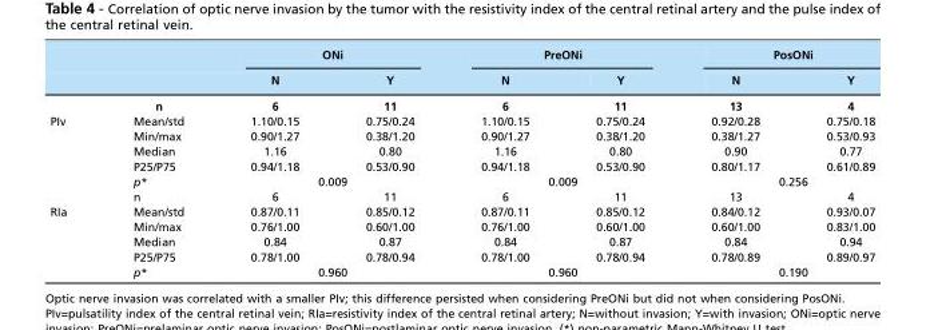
<table><thead><tr><td rowspan="2"></td><td rowspan="2"></td><td colspan="2">ONi</td><td colspan="2">PreONi</td><td colspan="2">PosONi</td></tr><tr><td>N</td><td>Y</td><td>N</td><td>Y</td><td>N</td><td>Y</td></tr></thead><tbody><tr><td></td><td>n</td><td>6</td><td>11</td><td>6</td><td>11</td><td>13</td><td>4</td></tr><tr><td rowspan="6">PIv</td><td>Mean/std</td><td>1.10/0.15</td><td>0.75/0.24</td><td>1.10/0.15</td><td>0.75/0.24</td><td>0.92/0.28</td><td>0.75/0.18</td></tr><tr><td>Min/max</td><td>0.90/1.27</td><td>0.38/1.20</td><td>0.90/1.27</td><td>0.38/1.20</td><td>0.38/1.27</td><td>0.53/0.93</td></tr><tr><td>Median</td><td>1.16</td><td>0.80</td><td>1.16</td><td>0.80</td><td>0.90</td><td>0.77</td></tr><tr><td>P25/P75</td><td>0.94/1.18</td><td>0.53/0.90</td><td>0.94/1.18</td><td>0.53/0.90</td><td>0.80/1.17</td><td>0.61/0.89</td></tr><tr><td>p*</td><td colspan="2">0.009</td><td colspan="2">0.009</td><td colspan="2">0.256</td></tr><tr><td>n</td><td>6</td><td>11</td><td>6</td><td>11</td><td>13</td><td>4</td></tr><tr><td rowspan="5">RIa</td><td>Mean/std</td><td>0.87/0.11</td><td>0.85/0.12</td><td>0.87/0.11</td><td>0.85/0.12</td><td>0.84/0.12</td><td>0.93/0.07</td></tr><tr><td>Min/max</td><td>0.76/1.00</td><td>0.60/1.00</td><td>0.76/1.00</td><td>0.60/1.00</td><td>0.60/1.00</td><td>0.83/1.00</td></tr><tr><td>Median</td><td>0.84</td><td>0.87</td><td>0.84</td><td>0.87</td><td>0.84</td><td>0.94</td></tr><tr><td>P25/P75</td><td>0.78/1.00</td><td>0.78/0.94</td><td>0.78/1.00</td><td>0.78/0.94</td><td>0.78/0.89</td><td>0.89/0.97</td></tr><tr><td>p*</td><td colspan="2">0.960</td><td colspan="2">0.960</td><td colspan="2">0.190</td></tr></tbody></table>